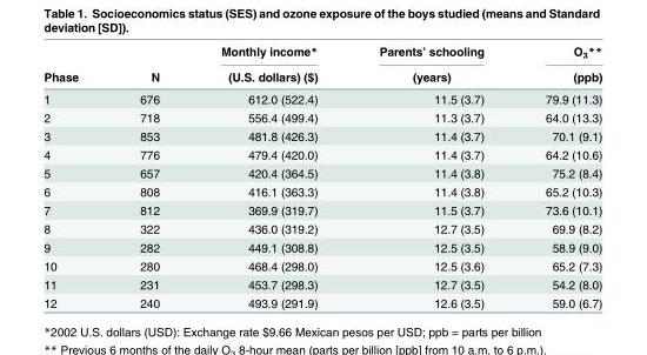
<table><thead><tr><td rowspan="2">Phase</td><td rowspan="2">N</td><td rowspan="2">Monthly income* (U.S. dollars) ($)</td><td rowspan="2">Parents’ schooling (years)</td><td rowspan="2">O<sub>3</sub>** (ppb)</td></tr><tr></tr></thead><tbody><tr><td>1</td><td>676</td><td>612.0 (522.4)</td><td>11.5 (3.7)</td><td>79.9 (11.3)</td></tr><tr><td>2</td><td>718</td><td>556.4 (499.4)</td><td>11.3 (3.7)</td><td>64.0 (13.3)</td></tr><tr><td>3</td><td>853</td><td>481.8 (426.3)</td><td>11.4 (3.7)</td><td>70.1 (9.1)</td></tr><tr><td>4</td><td>776</td><td>479.4 (420.0)</td><td>11.4 (3.7)</td><td>64.2 (10.6)</td></tr><tr><td>5</td><td>657</td><td>420.4 (364.5)</td><td>11.4 (3.8)</td><td>75.2 (8.4)</td></tr><tr><td>6</td><td>808</td><td>416.1 (363.3)</td><td>11.4 (3.8)</td><td>65.2 (10.3)</td></tr><tr><td>7</td><td>812</td><td>369.9 (319.7)</td><td>11.5 (3.7)</td><td>73.6 (10.1)</td></tr><tr><td>8</td><td>322</td><td>436.0 (319.2)</td><td>12.7 (3.5)</td><td>69.9 (8.2)</td></tr><tr><td>9</td><td>282</td><td>449.1 (308.8)</td><td>12.5 (3.5)</td><td>58.9 (9.0)</td></tr><tr><td>10</td><td>280</td><td>468.4 (298.0)</td><td>12.5 (3.6)</td><td>65.2 (7.3)</td></tr><tr><td>11</td><td>231</td><td>453.7 (298.3)</td><td>12.7 (3.5)</td><td>54.2 (8.0)</td></tr><tr><td>12</td><td>240</td><td>493.9 (291.9)</td><td>12.6 (3.5)</td><td>59.0 (6.7)</td></tr></tbody></table>